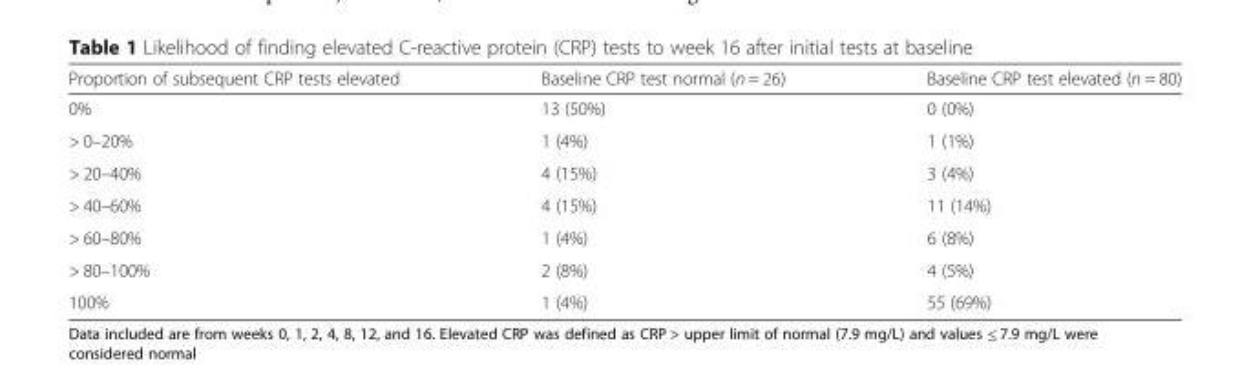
<table><thead><tr><td>Proportion of subsequent CRP tests elevated</td><td>Baseline CRP test normal (n = 26)</td><td>Baseline CRP test elevated (n = 80)</td></tr></thead><tbody><tr><td>0%</td><td>13 (50%)</td><td>0 (0%)</td></tr><tr><td>&gt; 0–20%</td><td>1 (4%)</td><td>1 (1%)</td></tr><tr><td>&gt; 20–40%</td><td>4 (15%)</td><td>3 (4%)</td></tr><tr><td>&gt; 40–60%</td><td>4 (15%)</td><td>11 (14%)</td></tr><tr><td>&gt; 60–80%</td><td>1 (4%)</td><td>6 (8%)</td></tr><tr><td>&gt; 80–100%</td><td>2 (8%)</td><td>4 (5%)</td></tr><tr><td>100%</td><td>1 (4%)</td><td>55 (69%)</td></tr></tbody></table>